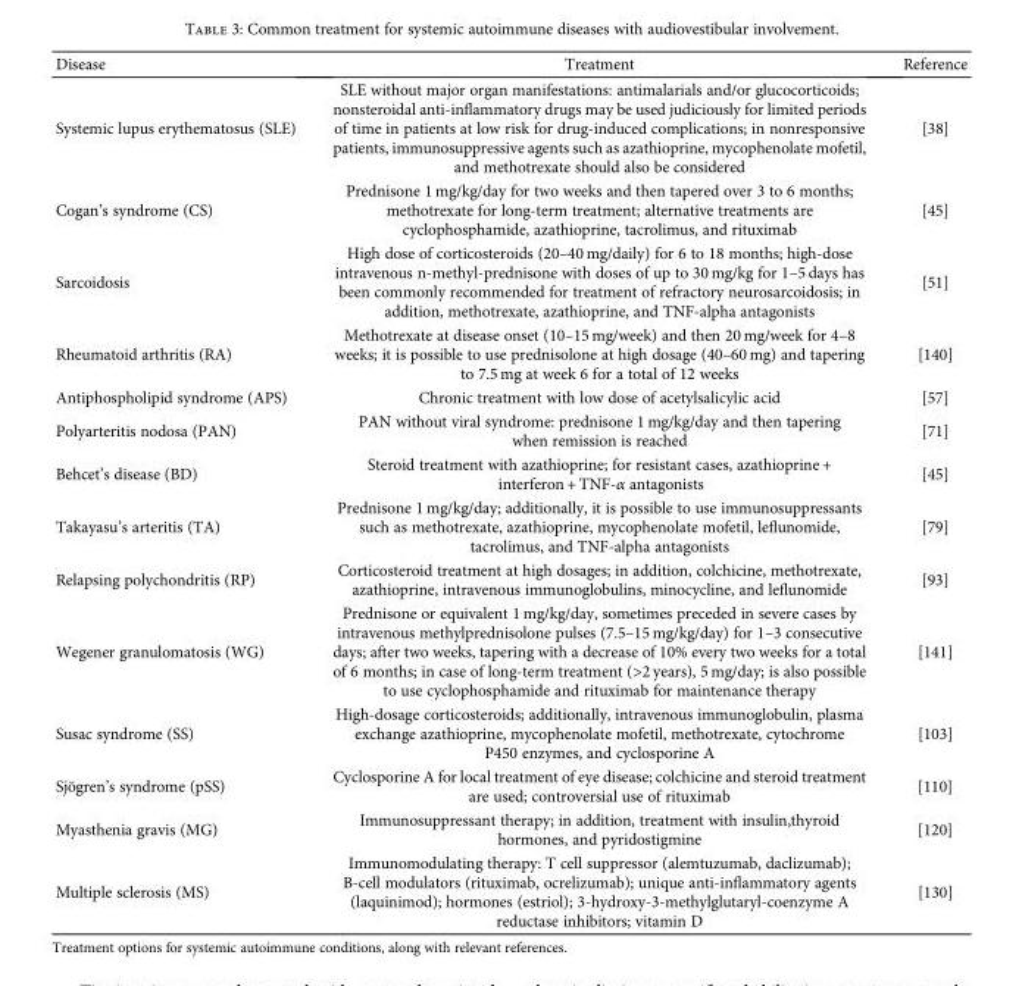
<table><thead><tr><td>Disease</td><td>Treatment</td><td>Reference</td></tr></thead><tbody><tr><td>Systemic lupus erythematosus (SLE)</td><td>SLE without major organ manifestations: antimalarials and/or glucocorticoids; nonsteroidal anti-inflammatory drugs may be used judiciously for limited periods of time in patients at low risk for drug-induced complications; in nonresponsive patients, immunosuppressive agents such as azathioprine, mycophenolate mofetil, and methotrexate should also be considered</td><td>[38]</td></tr><tr><td>Cogan’s syndrome (CS)</td><td>Prednisone 1 mg/kg/day for two weeks and then tapered over 3 to 6 months; methotrexate for long-term treatment; alternative treatments are cyclophosphamide, azathioprine, tacrolimus, and rituximab</td><td>[45]</td></tr><tr><td>Sarcoidosis</td><td>High dose of corticosteroids (20–40 mg/daily) for 6 to 18 months; high-dose intravenous n-methyl-prednisone with doses of up to 30 mg/kg for 1–5 days has been commonly recommended for treatment of refractory neurosarcoidosis; in addition, methotrexate, azathioprine, and TNF-alpha antagonists</td><td>[51]</td></tr><tr><td>Rheumatoid arthritis (RA)</td><td>Methotrexate at disease onset (10–15 mg/week) and then 20 mg/week for 4–8 weeks; it is possible to use prednisolone at high dosage (40–60 mg) and tapering to 7.5 mg at week 6 for a total of 12 weeks</td><td>[140]</td></tr><tr><td>Antiphospholipid syndrome (APS)</td><td>Chronic treatment with low dose of acetylsalicylic acid</td><td>[57]</td></tr><tr><td>Polyarteritis nodosa (PAN)</td><td>PAN without viral syndrome: prednisone 1 mg/kg/day and then tapering when remission is reached</td><td>[71]</td></tr><tr><td>Behcet’s disease (BD)</td><td>Steroid treatment with azathioprine; for resistant cases, azathioprine + interferon + TNF-α antagonists</td><td>[45]</td></tr><tr><td>Takayasu’s arteritis (TA)</td><td>Prednisone 1 mg/kg/day; additionally, it is possible to use immunosuppressants such as methotrexate, azathioprine, mycophenolate mofetil, leflunomide, tacrolimus, and TNF-alpha antagonists</td><td>[79]</td></tr><tr><td>Relapsing polychondritis (RP)</td><td>Corticosteroid treatment at high dosages; in addition, colchicine, methotrexate, azathioprine, intravenous immunoglobulins, minocycline, and leflunomide</td><td>[93]</td></tr><tr><td>Wegener granulomatosis (WG)</td><td>Prednisone or equivalent 1 mg/kg/day, sometimes preceded in severe cases by intravenous methylprednisolone pulses (7.5–15 mg/kg/day) for 1–3 consecutive days; after two weeks, tapering with a decrease of 10% every two weeks for a total of 6 months; in case of long-term treatment (&gt;2 years), 5 mg/day; is also possible to use cyclophosphamide and rituximab for maintenance therapy</td><td>[141]</td></tr><tr><td>Susac syndrome (SS)</td><td>High-dosage corticosteroids; additionally, intravenous immunoglobulin, plasma exchange azathioprine, mycophenolate mofetil, methotrexate, cytochrome P450 enzymes, and cyclosporine A</td><td>[103]</td></tr><tr><td>Sjögren’s syndrome (pSS)</td><td>Cyclosporine A for local treatment of eye disease; colchicine and steroid treatment are used; controversial use of rituximab</td><td>[110]</td></tr><tr><td>Myasthenia gravis (MG)</td><td>Immunosuppressant therapy; in addition, treatment with insulin,thyroid hormones, and pyridostigmine</td><td>[120]</td></tr><tr><td>Multiple sclerosis (MS)</td><td>Immunomodulating therapy: T cell suppressor (alemtuzumab, daclizumab); B-cell modulators (rituximab, ocrelizumab); unique anti-inflammatory agents (laquinimod); hormones (estriol); 3-hydroxy-3-methylglutaryl-coenzyme A reductase inhibitors; vitamin D</td><td>[130]</td></tr></tbody></table>